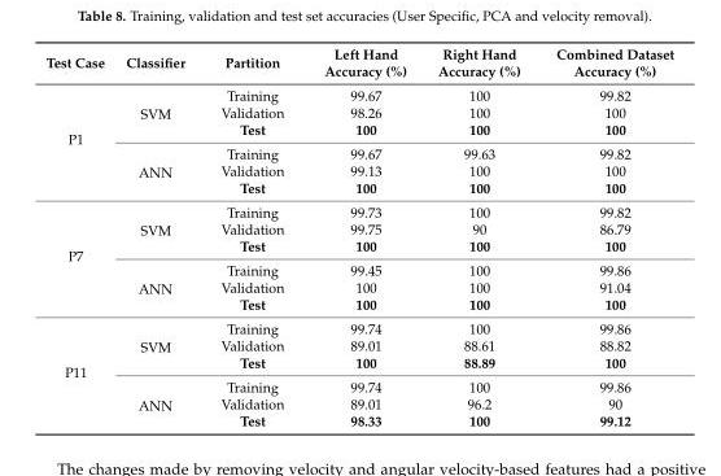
<table><thead><tr><td>Test Case</td><td>Classifier</td><td>Partition</td><td>Left Hand Accuracy (%)</td><td>Right Hand Accuracy (%)</td><td>Combined Dataset Accuracy (%)</td></tr></thead><tbody><tr><td rowspan="6">P1</td><td rowspan="3">SVM</td><td>Training</td><td>99.67</td><td>100</td><td>99.82</td></tr><tr><td>Validation</td><td>98.26</td><td>100</td><td>100</td></tr><tr><td>Test</td><td>100</td><td>100</td><td>100</td></tr><tr><td rowspan="3">ANN</td><td>Training</td><td>99.67</td><td>99.63</td><td>99.82</td></tr><tr><td>Validation</td><td>99.13</td><td>100</td><td>100</td></tr><tr><td>Test</td><td>100</td><td>100</td><td>100</td></tr><tr><td rowspan="6">P7</td><td rowspan="3">SVM</td><td>Training</td><td>99.73</td><td>100</td><td>99.82</td></tr><tr><td>Validation</td><td>99.75</td><td>90</td><td>86.79</td></tr><tr><td>Test</td><td>100</td><td>100</td><td>100</td></tr><tr><td rowspan="3">ANN</td><td>Training</td><td>99.45</td><td>100</td><td>99.86</td></tr><tr><td>Validation</td><td>100</td><td>100</td><td>91.04</td></tr><tr><td>Test</td><td>100</td><td>100</td><td>100</td></tr><tr><td rowspan="6">P11</td><td rowspan="3">SVM</td><td>Training</td><td>99.74</td><td>100</td><td>99.86</td></tr><tr><td>Validation</td><td>89.01</td><td>88.61</td><td>88.82</td></tr><tr><td>Test</td><td>100</td><td>88.89</td><td>100</td></tr><tr><td rowspan="3">ANN</td><td>Training</td><td>99.74</td><td>100</td><td>99.86</td></tr><tr><td>Validation</td><td>89.01</td><td>96.2</td><td>90</td></tr><tr><td>Test</td><td>98.33</td><td>100</td><td>99.12</td></tr></tbody></table>